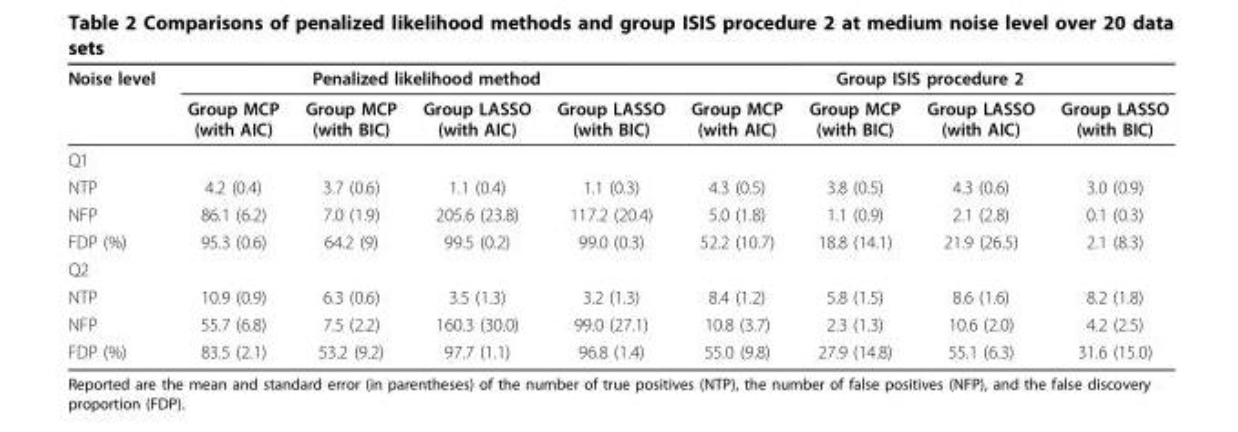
<table><thead><tr><td rowspan="2">Noise level</td><td colspan="4">Penalized likelihood method</td><td colspan="4">Group ISIS procedure 2</td></tr><tr><td>Group MCP (with AIC)</td><td>Group MCP (with BIC)</td><td>Group LASSO (with AIC)</td><td>Group LASSO (with BIC)</td><td>Group MCP (with AIC)</td><td>Group MCP (with BIC)</td><td>Group LASSO (with AIC)</td><td>Group LASSO (with BIC)</td></tr></thead><tbody><tr><td colspan="9">Q1</td></tr><tr><td>NTP</td><td>4.2 (0.4)</td><td>3.7 (0.6)</td><td>1.1 (0.4)</td><td>1.1 (0.3)</td><td>4.3 (0.5)</td><td>3.8 (0.5)</td><td>4.3 (0.6)</td><td>3.0 (0.9)</td></tr><tr><td>NFP</td><td>86.1 (6.2)</td><td>7.0 (1.9)</td><td>205.6 (23.8)</td><td>117.2 (20.4)</td><td>5.0 (1.8)</td><td>1.1 (0.9)</td><td>2.1 (2.8)</td><td>0.1 (0.3)</td></tr><tr><td>FDP (%)</td><td>95.3 (0.6)</td><td>64.2 (9)</td><td>99.5 (0.2)</td><td>99.0 (0.3)</td><td>52.2 (10.7)</td><td>18.8 (14.1)</td><td>21.9 (26.5)</td><td>2.1 (8.3)</td></tr><tr><td colspan="9">Q2</td></tr><tr><td>NTP</td><td>10.9 (0.9)</td><td>6.3 (0.6)</td><td>3.5 (1.3)</td><td>3.2 (1.3)</td><td>8.4 (1.2)</td><td>5.8 (1.5)</td><td>8.6 (1.6)</td><td>8.2 (1.8)</td></tr><tr><td>NFP</td><td>55.7 (6.8)</td><td>7.5 (2.2)</td><td>160.3 (30.0)</td><td>99.0 (27.1)</td><td>10.8 (3.7)</td><td>2.3 (1.3)</td><td>10.6 (2.0)</td><td>4.2 (2.5)</td></tr><tr><td>FDP (%)</td><td>83.5 (2.1)</td><td>53.2 (9.2)</td><td>97.7 (1.1)</td><td>96.8 (1.4)</td><td>55.0 (9.8)</td><td>27.9 (14.8)</td><td>55.1 (6.3)</td><td>31.6 (15.0)</td></tr></tbody></table>